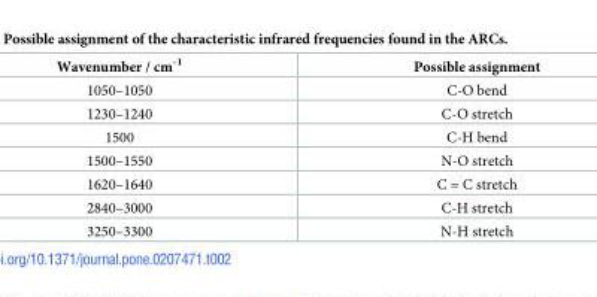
<table><thead><tr><td>Wavenumber / cm<sup>-1</sup></td><td>Possible assignment</td></tr></thead><tbody><tr><td>1050–1050</td><td>C-O bend</td></tr><tr><td>1230–1240</td><td>C-O stretch</td></tr><tr><td>1500</td><td>C-H bend</td></tr><tr><td>1500–1550</td><td>N-O stretch</td></tr><tr><td>1620–1640</td><td>C = C stretch</td></tr><tr><td>2840–3000</td><td>C-H stretch</td></tr><tr><td>3250–3300</td><td>N-H stretch</td></tr></tbody></table>